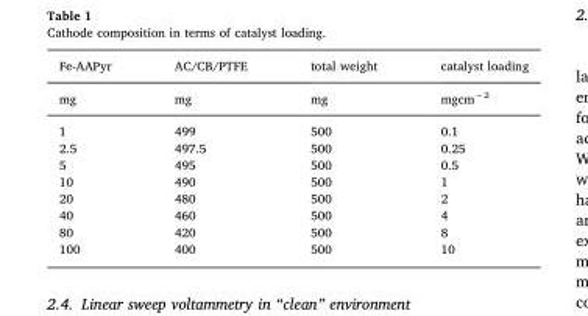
<table><thead><tr><td rowspan="2">Fe-AAPyr mg</td><td rowspan="2">AC/CB/PTFE mg</td><td rowspan="2">total weight mg</td><td rowspan="2">catalyst loading mgcm<sup>−2</sup></td></tr><tr></tr></thead><tbody><tr><td>1</td><td>499</td><td>500</td><td>0.1</td></tr><tr><td>2.5</td><td>497.5</td><td>500</td><td>0.25</td></tr><tr><td>5</td><td>495</td><td>500</td><td>0.5</td></tr><tr><td>10</td><td>490</td><td>500</td><td>1</td></tr><tr><td>20</td><td>480</td><td>500</td><td>2</td></tr><tr><td>40</td><td>460</td><td>500</td><td>4</td></tr><tr><td>80</td><td>420</td><td>500</td><td>8</td></tr><tr><td>100</td><td>400</td><td>500</td><td>10</td></tr></tbody></table>